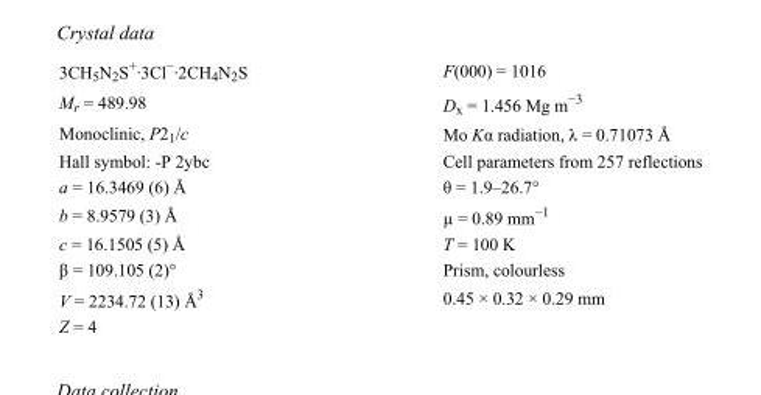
<table><tbody><tr><td>3CH<sub>5</sub>N<sub>2</sub>S<sup>+</sup>·3Cl<sup>−</sup>·2CH<sub>4</sub>N<sub>2</sub>S</td><td>F(000) = 1016</td></tr><tr><td>M<sub>r</sub> = 489.98</td><td>D<sub>x</sub> = 1.456 Mg m<sup>−3</sup></td></tr><tr><td>Monoclinic, P2<sub>1</sub>/c</td><td>Mo Kα radiation, λ = 0.71073 Å</td></tr><tr><td>Hall symbol: -P 2ybc</td><td>Cell parameters from 257 reflections</td></tr><tr><td>a = 16.3469 (6) Å</td><td>θ = 1.9–26.7°</td></tr><tr><td>b = 8.9579 (3) Å</td><td>µ = 0.89 mm<sup>−1</sup></td></tr><tr><td>c = 16.1505 (5) Å</td><td>T = 100 K</td></tr><tr><td>β = 109.105 (2)°</td><td>Prism, colourless</td></tr><tr><td>V = 2234.72 (13) Å<sup>3</sup></td><td>0.45 × 0.32 × 0.29 mm</td></tr><tr><td>Z = 4</td><td></td></tr></tbody></table>